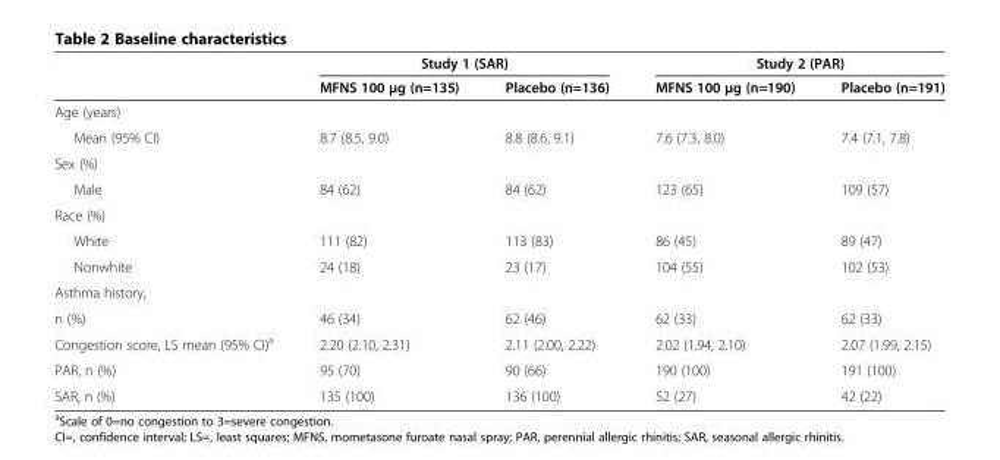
<table><thead><tr><td rowspan="2"></td><td colspan="2">Study 1 (SAR)</td><td colspan="2">Study 2 (PAR)</td></tr><tr><td>MFNS 100 μg (n=135)</td><td>Placebo (n=136)</td><td>MFNS 100 μg (n=190)</td><td>Placebo (n=191)</td></tr></thead><tbody><tr><td colspan="5">Age (years)</td></tr><tr><td>Mean (95% CI)</td><td>8.7 (8.5, 9.0)</td><td>8.8 (8.6, 9.1)</td><td>7.6 (7.3, 8.0)</td><td>7.4 (7.1, 7.8)</td></tr><tr><td colspan="5">Sex (%)</td></tr><tr><td>Male</td><td>84 (62)</td><td>84 (62)</td><td>123 (65)</td><td>109 (57)</td></tr><tr><td colspan="5">Race (%)</td></tr><tr><td>White</td><td>111 (82)</td><td>113 (83)</td><td>86 (45)</td><td>89 (47)</td></tr><tr><td>Nonwhite</td><td>24 (18)</td><td>23 (17)</td><td>104 (55)</td><td>102 (53)</td></tr><tr><td colspan="5">Asthma history,</td></tr><tr><td>n (%)</td><td>46 (34)</td><td>62 (46)</td><td>62 (33)</td><td>62 (33)</td></tr><tr><td>Congestion score, LS mean (95% CI)<sup>a</sup></td><td>2.20 (2.10, 2.31)</td><td>2.11 (2.00, 2.22)</td><td>2.02 (1.94, 2.10)</td><td>2.07 (1.99, 2.15)</td></tr><tr><td>PAR, n (%)</td><td>95 (70)</td><td>90 (66)</td><td>190 (100)</td><td>191 (100)</td></tr><tr><td>SAR, n (%)</td><td>135 (100)</td><td>136 (100)</td><td>52 (27)</td><td>42 (22)</td></tr></tbody></table>